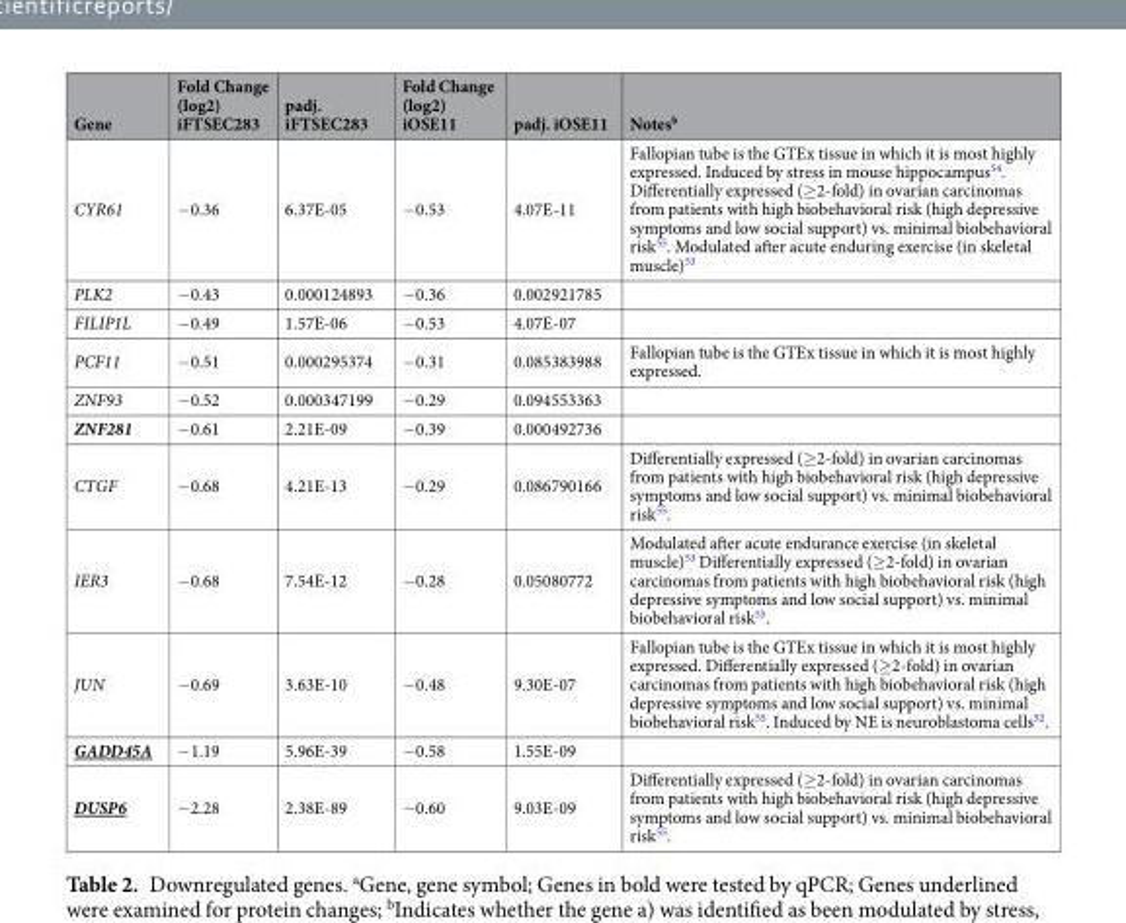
<table><thead><tr><td>Gene</td><td>Fold Change (log2) iFTSEC283</td><td>padj. iFTSEC283</td><td>Fold Change (log2) iOSE11</td><td>padj. iOSE11</td><td>Notes<sup>b</sup></td></tr></thead><tbody><tr><td>CYR61</td><td>−0.36</td><td>6.37E-05</td><td>−0.53</td><td>4.07E-11</td><td>Fallopian tube is the GTEx tissue in which it is most highly expressed. Induced by stress in mouse hippocampus<sup>54</sup>. Differentially expressed (≥2-fold) in ovarian carcinomas from patients with high biobehavioral risk (high depressive symptoms and low social support) vs. minimal biobehavioral risk<sup>55</sup>. Modulated after acute enduring exercise (in skeletal muscle)<sup>53</sup></td></tr><tr><td>PLK2</td><td>−0.43</td><td>0.000124893</td><td>−0.36</td><td>0.002921785</td><td></td></tr><tr><td>FILIP1L</td><td>−0.49</td><td>1.57E-06</td><td>−0.53</td><td>4.07E-07</td><td></td></tr><tr><td>PCF11</td><td>−0.51</td><td>0.000295374</td><td>−0.31</td><td>0.085383988</td><td>Fallopian tube is the GTEx tissue in which it is most highly expressed.</td></tr><tr><td>ZNF93</td><td>−0.52</td><td>0.000347199</td><td>−0.29</td><td>0.094553363</td><td></td></tr><tr><td>ZNF281</td><td>−0.61</td><td>2.21E-09</td><td>−0.39</td><td>0.000492736</td><td></td></tr><tr><td>CTGF</td><td>−0.68</td><td>4.21E-13</td><td>−0.29</td><td>0.086790166</td><td>Differentially expressed (≥2-fold) in ovarian carcinomas from patients with high biobehavioral risk (high depressive symptoms and low social support) vs. minimal biobehavioral risk<sup>55</sup>.</td></tr><tr><td>IER3</td><td>−0.68</td><td>7.54E-12</td><td>−0.28</td><td>0.05080772</td><td>Modulated after acute endurance exercise (in skeletal muscle)<sup>53</sup> Differentially expressed (≥2-fold) in ovarian carcinomas from patients with high biobehavioral risk (high depressive symptoms and low social support) vs. minimal biobehavioral risk<sup>55</sup>.</td></tr><tr><td>JUN</td><td>−0.69</td><td>3.63E-10</td><td>−0.48</td><td>9.30E-07</td><td>Fallopian tube is the GTEx tissue in which it is most highly expressed. Differentially expressed (≥2-fold) in ovarian carcinomas from patients with high biobehavioral risk (high depressive symptoms and low social support) vs. minimal biobehavioral risk<sup>55</sup>. Induced by NE is neuroblastoma cells<sup>52</sup>.</td></tr><tr><td>GADD45A</td><td>−1.19</td><td>5.96E-39</td><td>−0.58</td><td>1.55E-09</td><td></td></tr><tr><td>DUSP6</td><td>−2.28</td><td>2.38E-89</td><td>−0.60</td><td>9.03E-09</td><td>Differentially expressed (≥2-fold) in ovarian carcinomas from patients with high biobehavioral risk (high depressive symptoms and low social support) vs. minimal biobehavioral risk<sup>55</sup>.</td></tr></tbody></table>